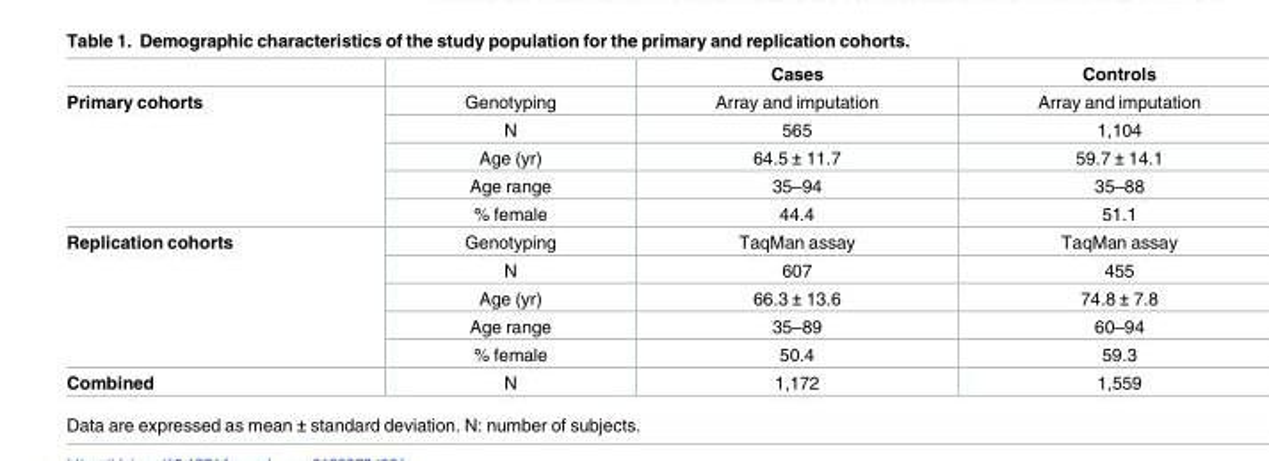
<table><thead><tr><td></td><td></td><td>Cases</td><td>Controls</td></tr></thead><tbody><tr><td rowspan="5">Primary cohorts</td><td>Genotyping</td><td>Array and imputation</td><td>Array and imputation</td></tr><tr><td>N</td><td>565</td><td>1,104</td></tr><tr><td>Age (yr)</td><td>64.5 ± 11.7</td><td>59.7 ± 14.1</td></tr><tr><td>Age range</td><td>35–94</td><td>35–88</td></tr><tr><td>% female</td><td>44.4</td><td>51.1</td></tr><tr><td rowspan="5">Replication cohorts</td><td>Genotyping</td><td>TaqMan assay</td><td>TaqMan assay</td></tr><tr><td>N</td><td>607</td><td>455</td></tr><tr><td>Age (yr)</td><td>66.3 ± 13.6</td><td>74.8 ± 7.8</td></tr><tr><td>Age range</td><td>35–89</td><td>60–94</td></tr><tr><td>% female</td><td>50.4</td><td>59.3</td></tr><tr><td>Combined</td><td>N</td><td>1,172</td><td>1,559</td></tr></tbody></table>